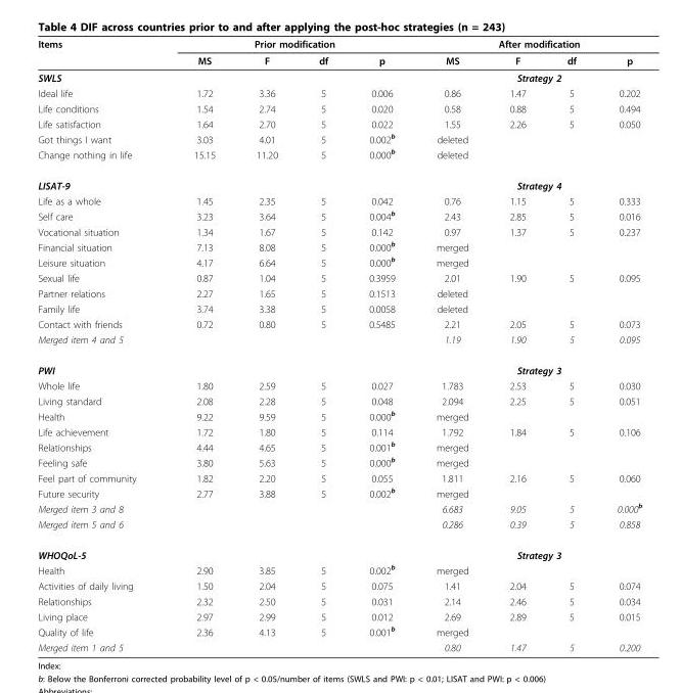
<table><thead><tr><td rowspan="2">Items</td><td colspan="4">Prior modification</td><td colspan="4">After modification</td></tr><tr><td>MS</td><td>F</td><td>df</td><td>p</td><td>MS</td><td>F</td><td>df</td><td>p</td></tr></thead><tbody><tr><td>SWLS</td><td></td><td></td><td></td><td></td><td colspan="4">Strategy 2</td></tr><tr><td>Ideal life</td><td>1.72</td><td>3.36</td><td>5</td><td>0.006</td><td>0.86</td><td>1.47</td><td>5</td><td>0.202</td></tr><tr><td>Life conditions</td><td>1.54</td><td>2.74</td><td>5</td><td>0.020</td><td>0.58</td><td>0.88</td><td>5</td><td>0.494</td></tr><tr><td>Life satisfaction</td><td>1.64</td><td>2.70</td><td>5</td><td>0.022</td><td>1.55</td><td>2.26</td><td>5</td><td>0.050</td></tr><tr><td>Got things I want</td><td>3.03</td><td>4.01</td><td>5</td><td>0.002<sup>b</sup></td><td>deleted</td><td></td><td></td><td></td></tr><tr><td>Change nothing in life</td><td>15.15</td><td>11.20</td><td>5</td><td>0.000<sup>b</sup></td><td>deleted</td><td></td><td></td><td></td></tr><tr><td>LISAT-9</td><td></td><td></td><td></td><td></td><td colspan="4">Strategy 4</td></tr><tr><td>Life as a whole</td><td>1.45</td><td>2.35</td><td>5</td><td>0.042</td><td>0.76</td><td>1.15</td><td>5</td><td>0.333</td></tr><tr><td>Self care</td><td>3.23</td><td>3.64</td><td>5</td><td>0.004<sup>b</sup></td><td>2.43</td><td>2.85</td><td>5</td><td>0.016</td></tr><tr><td>Vocational situation</td><td>1.34</td><td>1.67</td><td>5</td><td>0.142</td><td>0.97</td><td>1.37</td><td>5</td><td>0.237</td></tr><tr><td>Financial situation</td><td>7.13</td><td>8.08</td><td>5</td><td>0.000<sup>b</sup></td><td>merged</td><td></td><td></td><td></td></tr><tr><td>Leisure situation</td><td>4.17</td><td>6.64</td><td>5</td><td>0.000<sup>b</sup></td><td>merged</td><td></td><td></td><td></td></tr><tr><td>Sexual life</td><td>0.87</td><td>1.04</td><td>5</td><td>0.3959</td><td>2.01</td><td>1.90</td><td>5</td><td>0.095</td></tr><tr><td>Partner relations</td><td>2.27</td><td>1.65</td><td>5</td><td>0.1513</td><td>deleted</td><td></td><td></td><td></td></tr><tr><td>Family life</td><td>3.74</td><td>3.38</td><td>5</td><td>0.0058</td><td>deleted</td><td></td><td></td><td></td></tr><tr><td>Contact with friends</td><td>0.72</td><td>0.80</td><td>5</td><td>0.5485</td><td>2.21</td><td>2.05</td><td>5</td><td>0.073</td></tr><tr><td>Merged item 4 and 5</td><td></td><td></td><td></td><td></td><td>1.19</td><td>1.90</td><td>5</td><td>0.095</td></tr><tr><td>PWI</td><td></td><td></td><td></td><td></td><td colspan="4">Strategy 3</td></tr><tr><td>Whole life</td><td>1.80</td><td>2.59</td><td>5</td><td>0.027</td><td>1.783</td><td>2.53</td><td>5</td><td>0.030</td></tr><tr><td>Living standard</td><td>2.08</td><td>2.28</td><td>5</td><td>0.048</td><td>2.094</td><td>2.25</td><td>5</td><td>0.051</td></tr><tr><td>Health</td><td>9.22</td><td>9.59</td><td>5</td><td>0.000<sup>b</sup></td><td>merged</td><td></td><td></td><td></td></tr><tr><td>Life achievement</td><td>1.72</td><td>1.80</td><td>5</td><td>0.114</td><td>1.792</td><td>1.84</td><td>5</td><td>0.106</td></tr><tr><td>Relationships</td><td>4.44</td><td>4.65</td><td>5</td><td>0.001<sup>b</sup></td><td>merged</td><td></td><td></td><td></td></tr><tr><td>Feeling safe</td><td>3.80</td><td>5.63</td><td>5</td><td>0.000<sup>b</sup></td><td>merged</td><td></td><td></td><td></td></tr><tr><td>Feel part of community</td><td>1.82</td><td>2.20</td><td>5</td><td>0.055</td><td>1.811</td><td>2.16</td><td>5</td><td>0.060</td></tr><tr><td>Future security</td><td>2.77</td><td>3.88</td><td>5</td><td>0.002<sup>b</sup></td><td>merged</td><td></td><td></td><td></td></tr><tr><td>Merged item 3 and 8</td><td></td><td></td><td></td><td></td><td>6.683</td><td>9.05</td><td>5</td><td>0.000<sup>b</sup></td></tr><tr><td>Merged item 5 and 6</td><td></td><td></td><td></td><td></td><td>0.286</td><td>0.39</td><td>5</td><td>0.858</td></tr><tr><td>WHOQoL-5</td><td></td><td></td><td></td><td></td><td colspan="4">Strategy 3</td></tr><tr><td>Health</td><td>2.90</td><td>3.85</td><td>5</td><td>0.002<sup>b</sup></td><td>merged</td><td></td><td></td><td></td></tr><tr><td>Activities of daily living</td><td>1.50</td><td>2.04</td><td>5</td><td>0.075</td><td>1.41</td><td>2.04</td><td>5</td><td>0.074</td></tr><tr><td>Relationships</td><td>2.32</td><td>2.50</td><td>5</td><td>0.031</td><td>2.14</td><td>2.46</td><td>5</td><td>0.034</td></tr><tr><td>Living place</td><td>2.97</td><td>2.99</td><td>5</td><td>0.012</td><td>2.69</td><td>2.89</td><td>5</td><td>0.015</td></tr><tr><td>Quality of life</td><td>2.36</td><td>4.13</td><td>5</td><td>0.001<sup>b</sup></td><td>merged</td><td></td><td></td><td></td></tr><tr><td>Merged item 1 and 5</td><td></td><td></td><td></td><td></td><td>0.80</td><td>1.47</td><td>5</td><td>0.200</td></tr></tbody></table>